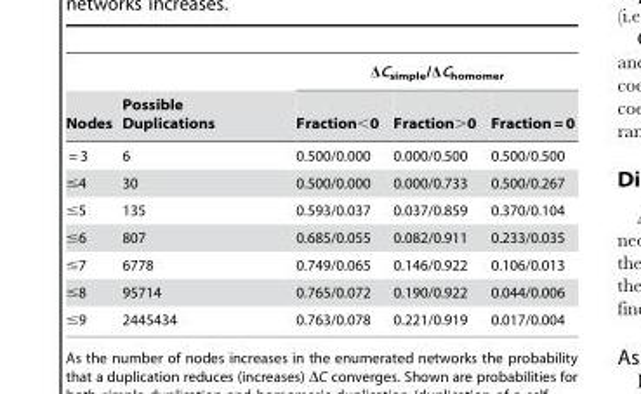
<table><thead><tr><td rowspan="2">Nodes</td><td rowspan="2">Possible Duplications</td><td colspan="3">ΔC<sub>simple</sub>/ΔC<sub>homomer</sub></td></tr><tr><td>Fraction&lt;0</td><td>Fraction&gt;0</td><td>Fraction = 0</td></tr></thead><tbody><tr><td>= 3</td><td>6</td><td>0.500/0.000</td><td>0.000/0.500</td><td>0.500/0.500</td></tr><tr><td>≤4</td><td>30</td><td>0.500/0.000</td><td>0.000/0.733</td><td>0.500/0.267</td></tr><tr><td>≤5</td><td>135</td><td>0.593/0.037</td><td>0.037/0.859</td><td>0.370/0.104</td></tr><tr><td>≤6</td><td>807</td><td>0.685/0.055</td><td>0.082/0.911</td><td>0.233/0.035</td></tr><tr><td>≤7</td><td>6778</td><td>0.749/0.065</td><td>0.146/0.922</td><td>0.106/0.013</td></tr><tr><td>≤8</td><td>95714</td><td>0.765/0.072</td><td>0.190/0.922</td><td>0.044/0.006</td></tr><tr><td>≤9</td><td>2445434</td><td>0.763/0.078</td><td>0.221/0.919</td><td>0.017/0.004</td></tr></tbody></table>